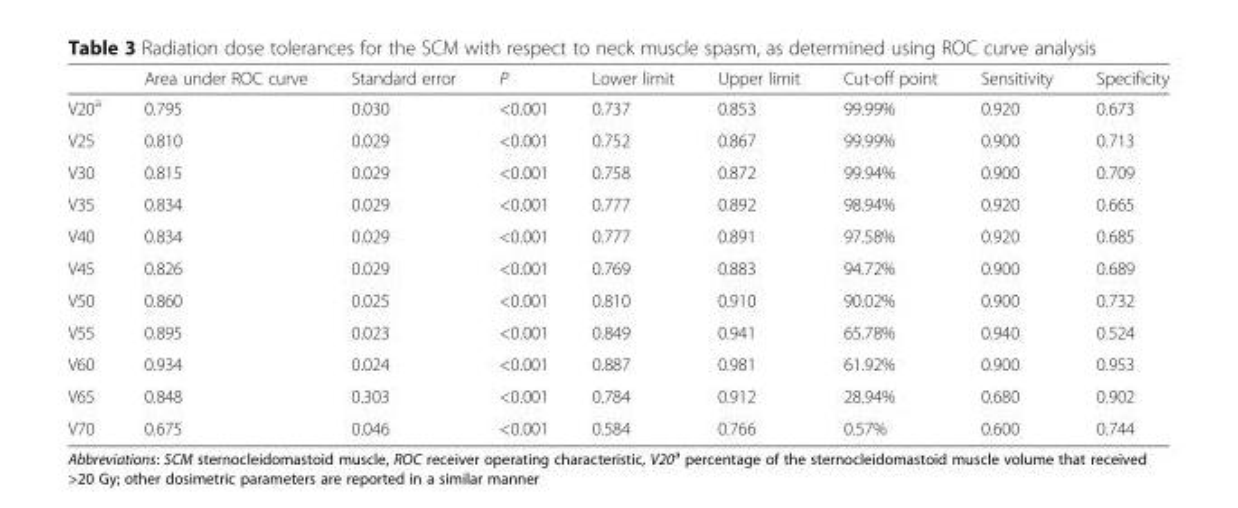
<table><thead><tr><td></td><td>Area under ROC curve</td><td>Standard error</td><td>P</td><td>Lower limit</td><td>Upper limit</td><td>Cut-off point</td><td>Sensitivity</td><td>Specificity</td></tr></thead><tbody><tr><td>V20<sup>a</sup></td><td>0.795</td><td>0.030</td><td>&lt;0.001</td><td>0.737</td><td>0.853</td><td>99.99%</td><td>0.920</td><td>0.673</td></tr><tr><td>V25</td><td>0.810</td><td>0.029</td><td>&lt;0.001</td><td>0.752</td><td>0.867</td><td>99.99%</td><td>0.900</td><td>0.713</td></tr><tr><td>V30</td><td>0.815</td><td>0.029</td><td>&lt;0.001</td><td>0.758</td><td>0.872</td><td>99.94%</td><td>0.900</td><td>0.709</td></tr><tr><td>V35</td><td>0.834</td><td>0.029</td><td>&lt;0.001</td><td>0.777</td><td>0.892</td><td>98.94%</td><td>0.920</td><td>0.665</td></tr><tr><td>V40</td><td>0.834</td><td>0.029</td><td>&lt;0.001</td><td>0.777</td><td>0.891</td><td>97.58%</td><td>0.920</td><td>0.685</td></tr><tr><td>V45</td><td>0.826</td><td>0.029</td><td>&lt;0.001</td><td>0.769</td><td>0.883</td><td>94.72%</td><td>0.900</td><td>0.689</td></tr><tr><td>V50</td><td>0.860</td><td>0.025</td><td>&lt;0.001</td><td>0.810</td><td>0.910</td><td>90.02%</td><td>0.900</td><td>0.732</td></tr><tr><td>V55</td><td>0.895</td><td>0.023</td><td>&lt;0.001</td><td>0.849</td><td>0.941</td><td>65.78%</td><td>0.940</td><td>0.524</td></tr><tr><td>V60</td><td>0.934</td><td>0.024</td><td>&lt;0.001</td><td>0.887</td><td>0.981</td><td>61.92%</td><td>0.900</td><td>0.953</td></tr><tr><td>V65</td><td>0.848</td><td>0.303</td><td>&lt;0.001</td><td>0.784</td><td>0.912</td><td>28.94%</td><td>0.680</td><td>0.902</td></tr><tr><td>V70</td><td>0.675</td><td>0.046</td><td>&lt;0.001</td><td>0.584</td><td>0.766</td><td>0.57%</td><td>0.600</td><td>0.744</td></tr></tbody></table>